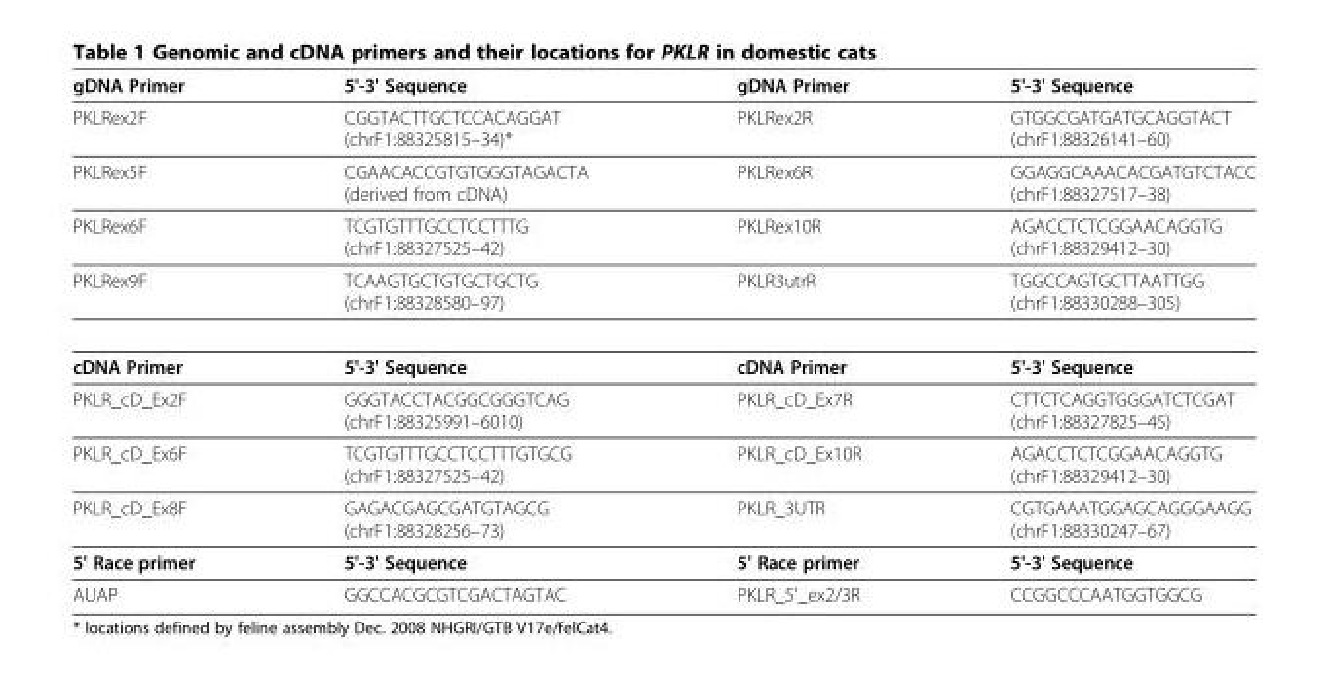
<table><thead><tr><td>gDNA Primer</td><td>5&#x27;-3&#x27; Sequence</td><td>gDNA Primer</td><td>5&#x27;-3&#x27; Sequence</td></tr></thead><tbody><tr><td>PKLRex2F</td><td>CGGTACTTGCTCCACAGGAT (chrF1:88325815–34)*</td><td>PKLRex2R</td><td>GTGGCGATGATGCAGGTACT (chrF1:88326141–60)</td></tr><tr><td>PKLRex5F</td><td>CGAACACCGTGTGGGTAGACTA (derived from cDNA)</td><td>PKLRex6R</td><td>GGAGGCAAACACGATGTCTACC (chrF1:88327517–38)</td></tr><tr><td>PKLRex6F</td><td>TCGTGTTTGCCTCCTTTG (chrF1:88327525–42)</td><td>PKLRex10R</td><td>AGACCTCTCGGAACAGGTG (chrF1:88329412–30)</td></tr><tr><td>PKLRex9F</td><td>TCAAGTGCTGTGCTGCTG (chrF1:88328580–97)</td><td>PKLR3utrR</td><td>TGGCCAGTGCTTAATTGG (chrF1:88330288–305)</td></tr><tr><td>cDNA Primer</td><td>5&#x27;-3&#x27; Sequence</td><td>cDNA Primer</td><td>5&#x27;-3&#x27; Sequence</td></tr><tr><td>PKLR_cD_Ex2F</td><td>GGGTACCTACGGCGGGTCAG (chrF1:88325991–6010)</td><td>PKLR_cD_Ex7R</td><td>CTTCTCAGGTGGGATCTCGAT (chrF1:88327825–45)</td></tr><tr><td>PKLR_cD_Ex6F</td><td>TCGTGTTTGCCTCCTTTGTGCG (chrF1:88327525–42)</td><td>PKLR_cD_Ex10R</td><td>AGACCTCTCGGAACAGGTG (chrF1:88329412–30)</td></tr><tr><td>PKLR_cD_Ex8F</td><td>GAGACGAGCGATGTAGCG (chrF1:88328256–73)</td><td>PKLR_3UTR</td><td>CGTGAAATGGAGCAGGGAAGG (chrF1:88330247–67)</td></tr><tr><td>5&#x27; Race primer</td><td>5&#x27;-3&#x27; Sequence</td><td>5&#x27; Race primer</td><td>5&#x27;-3&#x27; Sequence</td></tr><tr><td>AUAP</td><td>GGCCACGCGTCGACTAGTAC</td><td>PKLR_5&#x27;_ex2/3R</td><td>CCGGCCCAATGGTGGCG</td></tr></tbody></table>